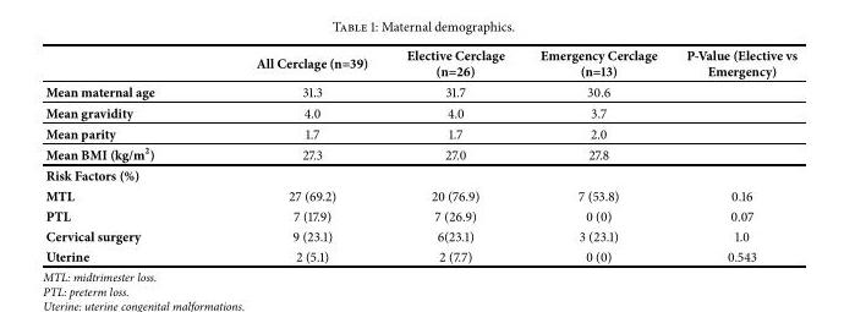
<table><thead><tr><td></td><td>All Cerclage (n=39)</td><td>Elective Cerclage (n=26)</td><td>Emergency Cerclage (n=13)</td><td>P-Value (Elective vs Emergency)</td></tr></thead><tbody><tr><td>Mean maternal age</td><td>31.3</td><td>31.7</td><td>30.6</td><td></td></tr><tr><td>Mean gravidity</td><td>4.0</td><td>4.0</td><td>3.7</td><td></td></tr><tr><td>Mean parity</td><td>1.7</td><td>1.7</td><td>2.0</td><td></td></tr><tr><td>Mean BMI (kg/m<sup>2</sup>)</td><td>27.3</td><td>27.0</td><td>27.8</td><td></td></tr><tr><td colspan="5">Risk Factors (%)</td></tr><tr><td>MTL</td><td>27 (69.2)</td><td>20 (76.9)</td><td>7 (53.8)</td><td>0.16</td></tr><tr><td>PTL</td><td>7 (17.9)</td><td>7 (26.9)</td><td>0 (0)</td><td>0.07</td></tr><tr><td>Cervical surgery</td><td>9 (23.1)</td><td>6(23.1)</td><td>3 (23.1)</td><td>1.0</td></tr><tr><td>Uterine</td><td>2 (5.1)</td><td>2 (7.7)</td><td>0 (0)</td><td>0.543</td></tr></tbody></table>